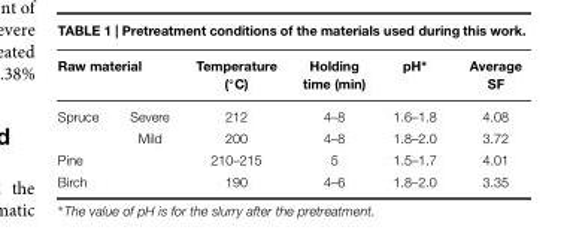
<table><thead><tr><td colspan="2">Raw material</td><td rowspan="2">Temperature (◦C) 212</td><td rowspan="2">Holding time (min) 4–8</td><td rowspan="2">pH∗ 1.6–1.8</td><td rowspan="2">Average SF 4.08</td></tr><tr><td>Spruce</td><td>Severe</td></tr></thead><tbody><tr><td></td><td>Mild</td><td>200</td><td>4–8</td><td>1.8–2.0</td><td>3.72</td></tr><tr><td>Pine</td><td></td><td>210–215</td><td>5</td><td>1.5–1.7</td><td>4.01</td></tr><tr><td>Birch</td><td></td><td>190</td><td>4–6</td><td>1.8–2.0</td><td>3.35</td></tr></tbody></table>